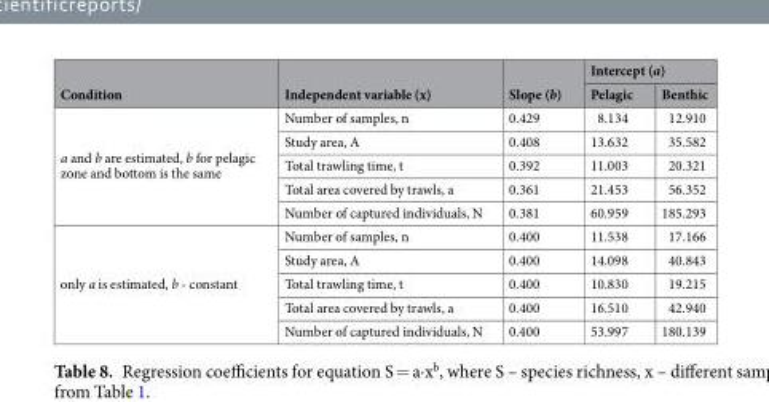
<table><thead><tr><td rowspan="2">Condition</td><td rowspan="2">Independent variable (x)</td><td rowspan="2">Slope (b)</td><td colspan="2">Intercept (a)</td></tr><tr><td>Pelagic</td><td>Benthic</td></tr></thead><tbody><tr><td rowspan="5">a and b are estimated, b for pelagic zone and bottom is the same</td><td>Number of samples, n</td><td>0.429</td><td>8.134</td><td>12.910</td></tr><tr><td>Study area, A</td><td>0.408</td><td>13.632</td><td>35.582</td></tr><tr><td>Total trawling time, t</td><td>0.392</td><td>11.003</td><td>20.321</td></tr><tr><td>Total area covered by trawls, a</td><td>0.361</td><td>21.453</td><td>56.352</td></tr><tr><td>Number of captured individuals, N</td><td>0.381</td><td>60.959</td><td>185.293</td></tr><tr><td rowspan="5">only a is estimated, b - constant</td><td>Number of samples, n</td><td>0.400</td><td>11.538</td><td>17.166</td></tr><tr><td>Study area, A</td><td>0.400</td><td>14.098</td><td>40.843</td></tr><tr><td>Total trawling time, t</td><td>0.400</td><td>10.830</td><td>19.215</td></tr><tr><td>Total area covered by trawls, a</td><td>0.400</td><td>16.510</td><td>42.940</td></tr><tr><td>Number of captured individuals, N</td><td>0.400</td><td>53.997</td><td>180.139</td></tr></tbody></table>